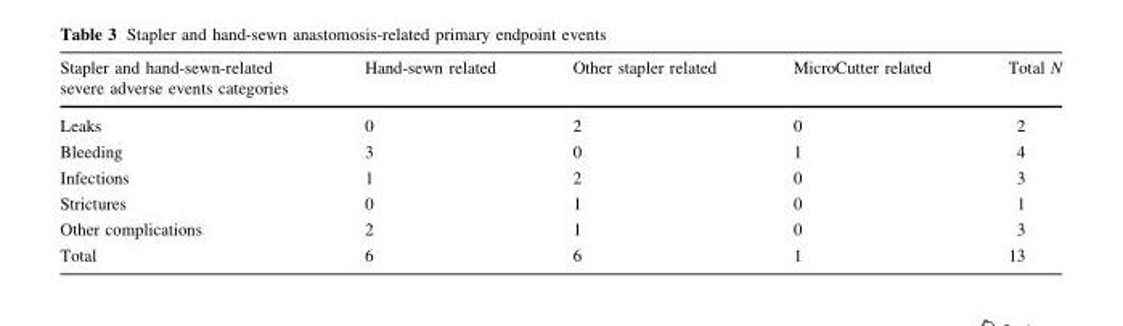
<table><thead><tr><td>Stapler and hand-sewn-related severe adverse events categories</td><td>Hand-sewn related</td><td>Other stapler related</td><td>MicroCutter related</td><td>Total N</td></tr></thead><tbody><tr><td>Leaks</td><td>0</td><td>2</td><td>0</td><td>2</td></tr><tr><td>Bleeding</td><td>3</td><td>0</td><td>1</td><td>4</td></tr><tr><td>Infections</td><td>1</td><td>2</td><td>0</td><td>3</td></tr><tr><td>Strictures</td><td>0</td><td>1</td><td>0</td><td>1</td></tr><tr><td>Other complications</td><td>2</td><td>1</td><td>0</td><td>3</td></tr><tr><td>Total</td><td>6</td><td>6</td><td>1</td><td>13</td></tr></tbody></table>